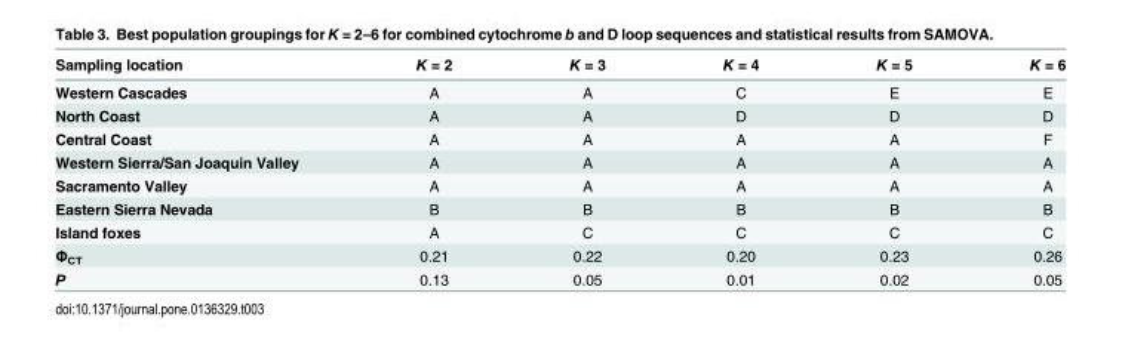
<table><thead><tr><td>Sampling location</td><td>K = 2</td><td>K = 3</td><td>K = 4</td><td>K = 5</td><td>K = 6</td></tr></thead><tbody><tr><td>Western Cascades</td><td>A</td><td>A</td><td>C</td><td>E</td><td>E</td></tr><tr><td>North Coast</td><td>A</td><td>A</td><td>D</td><td>D</td><td>D</td></tr><tr><td>Central Coast</td><td>A</td><td>A</td><td>A</td><td>A</td><td>F</td></tr><tr><td>Western Sierra/San Joaquin Valley</td><td>A</td><td>A</td><td>A</td><td>A</td><td>A</td></tr><tr><td>Sacramento Valley</td><td>A</td><td>A</td><td>A</td><td>A</td><td>A</td></tr><tr><td>Eastern Sierra Nevada</td><td>B</td><td>B</td><td>B</td><td>B</td><td>B</td></tr><tr><td>Island foxes</td><td>A</td><td>C</td><td>C</td><td>C</td><td>C</td></tr><tr><td>Φ<sub>CT</sub></td><td>0.21</td><td>0.22</td><td>0.20</td><td>0.23</td><td>0.26</td></tr><tr><td>P</td><td>0.13</td><td>0.05</td><td>0.01</td><td>0.02</td><td>0.05</td></tr></tbody></table>